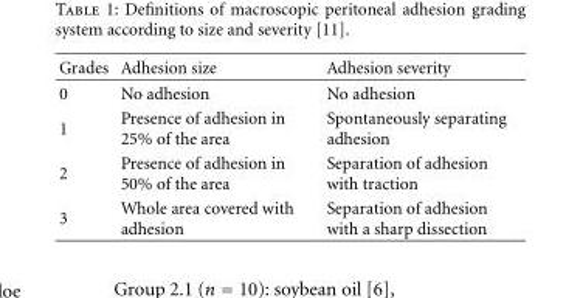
<table><thead><tr><td>Grades</td><td>Adhesion size</td><td>Adhesion severity</td></tr></thead><tbody><tr><td>0</td><td>No adhesion</td><td>No adhesion</td></tr><tr><td>1</td><td>Presence of adhesion in 25% of the area</td><td>Spontaneously separating adhesion</td></tr><tr><td>2</td><td>Presence of adhesion in 50% of the area</td><td>Separation of adhesion with traction</td></tr><tr><td>3</td><td>Whole area covered with adhesion</td><td>Separation of adhesion with a sharp dissection</td></tr></tbody></table>